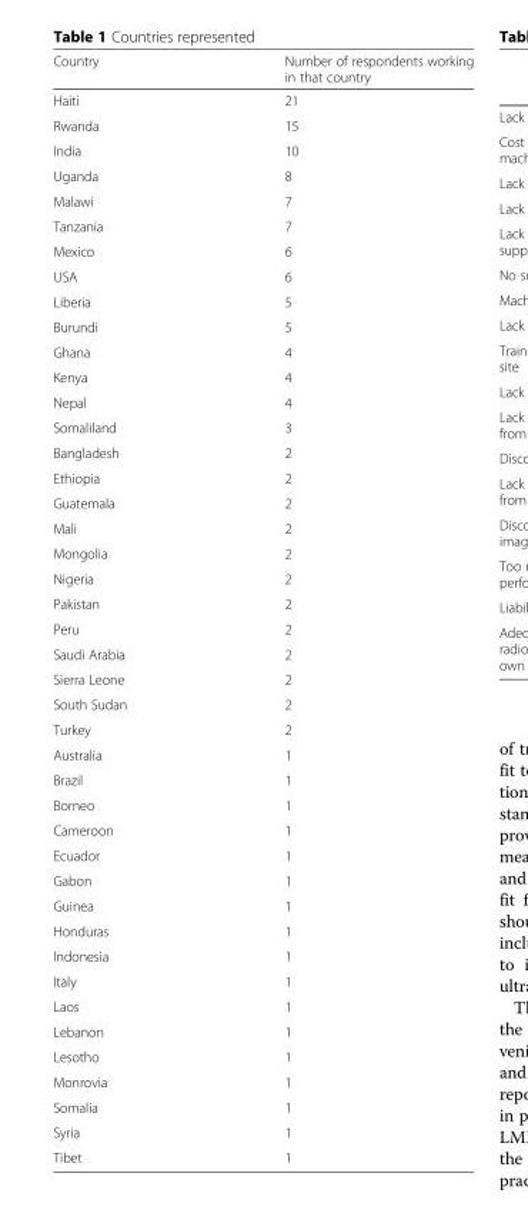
<table><thead><tr><td>Country</td><td>Number of respondents working in that country</td></tr></thead><tbody><tr><td>Haiti</td><td>21</td></tr><tr><td>Rwanda</td><td>15</td></tr><tr><td>India</td><td>10</td></tr><tr><td>Uganda</td><td>8</td></tr><tr><td>Malawi</td><td>7</td></tr><tr><td>Tanzania</td><td>7</td></tr><tr><td>Mexico</td><td>6</td></tr><tr><td>USA</td><td>6</td></tr><tr><td>Liberia</td><td>5</td></tr><tr><td>Burundi</td><td>5</td></tr><tr><td>Ghana</td><td>4</td></tr><tr><td>Kenya</td><td>4</td></tr><tr><td>Nepal</td><td>4</td></tr><tr><td>Somaliland</td><td>3</td></tr><tr><td>Bangladesh</td><td>2</td></tr><tr><td>Ethiopia</td><td>2</td></tr><tr><td>Guatemala</td><td>2</td></tr><tr><td>Mali</td><td>2</td></tr><tr><td>Mongolia</td><td>2</td></tr><tr><td>Nigeria</td><td>2</td></tr><tr><td>Pakistan</td><td>2</td></tr><tr><td>Peru</td><td>2</td></tr><tr><td>Saudi Arabia</td><td>2</td></tr><tr><td>Sierra Leone</td><td>2</td></tr><tr><td>South Sudan</td><td>2</td></tr><tr><td>Turkey</td><td>2</td></tr><tr><td>Australia</td><td>1</td></tr><tr><td>Brazil</td><td>1</td></tr><tr><td>Borneo</td><td>1</td></tr><tr><td>Cameroon</td><td>1</td></tr><tr><td>Ecuador</td><td>1</td></tr><tr><td>Gabon</td><td>1</td></tr><tr><td>Guinea</td><td>1</td></tr><tr><td>Honduras</td><td>1</td></tr><tr><td>Indonesia</td><td>1</td></tr><tr><td>Italy</td><td>1</td></tr><tr><td>Laos</td><td>1</td></tr><tr><td>Lebanon</td><td>1</td></tr><tr><td>Lesotho</td><td>1</td></tr><tr><td>Monrovia</td><td>1</td></tr><tr><td>Somalia</td><td>1</td></tr><tr><td>Syria</td><td>1</td></tr><tr><td>Tibet</td><td>1</td></tr></tbody></table>